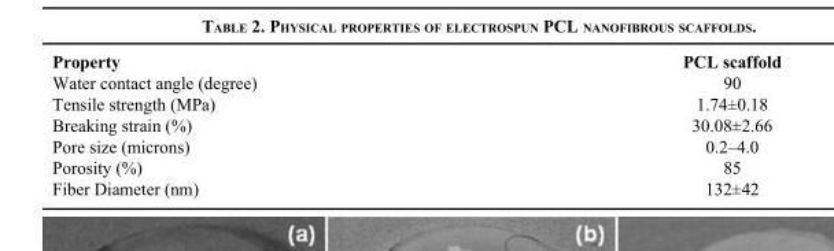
<table><thead><tr><td>Property</td><td>PCL scaffold</td></tr></thead><tbody><tr><td>Water contact angle (degree)</td><td>90</td></tr><tr><td>Tensile strength (MPa)</td><td>1.74±0.18</td></tr><tr><td>Breaking strain (%)</td><td>30.08±2.66</td></tr><tr><td>Pore size (microns)</td><td>0.2–4.0</td></tr><tr><td>Porosity (%)</td><td>85</td></tr><tr><td>Fiber Diameter (nm)</td><td>132±42</td></tr></tbody></table>